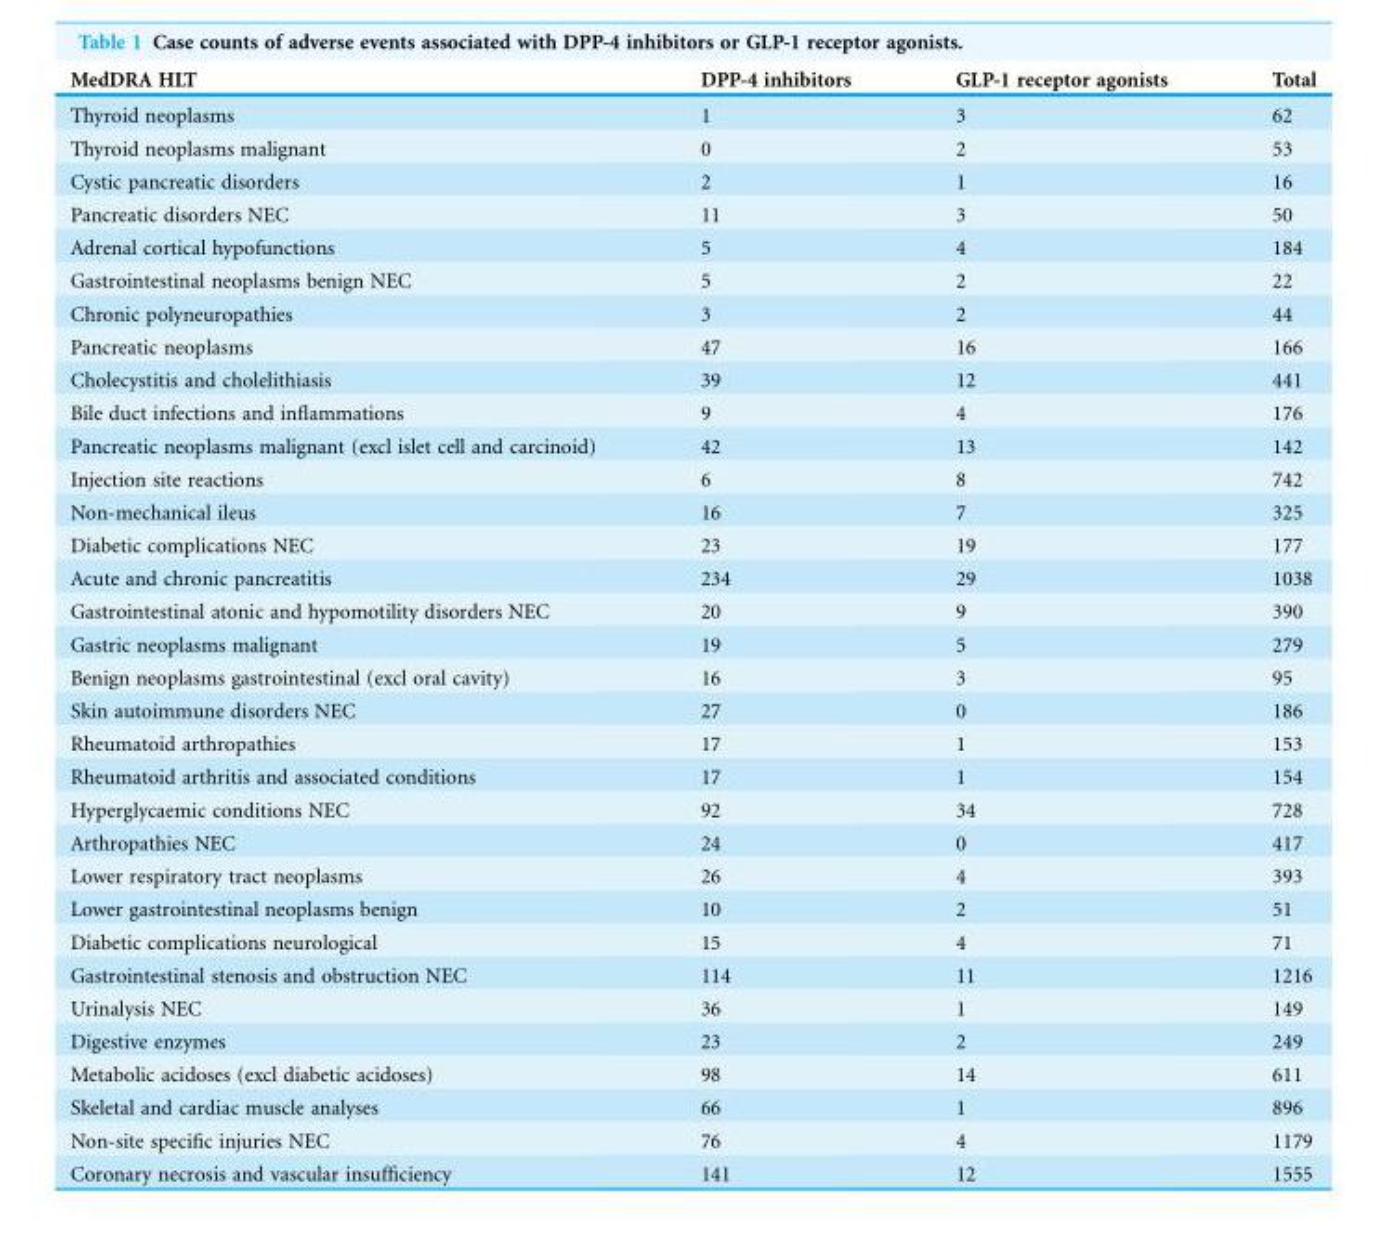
<table><thead><tr><td>MedDRA HLT</td><td>DPP-4 inhibitors</td><td>GLP-1 receptor agonists</td><td>Total</td></tr></thead><tbody><tr><td>Thyroid neoplasms</td><td>1</td><td>3</td><td>62</td></tr><tr><td>Thyroid neoplasms malignant</td><td>0</td><td>2</td><td>53</td></tr><tr><td>Cystic pancreatic disorders</td><td>2</td><td>1</td><td>16</td></tr><tr><td>Pancreatic disorders NEC</td><td>11</td><td>3</td><td>50</td></tr><tr><td>Adrenal cortical hypofunctions</td><td>5</td><td>4</td><td>184</td></tr><tr><td>Gastrointestinal neoplasms benign NEC</td><td>5</td><td>2</td><td>22</td></tr><tr><td>Chronic polyneuropathies</td><td>3</td><td>2</td><td>44</td></tr><tr><td>Pancreatic neoplasms</td><td>47</td><td>16</td><td>166</td></tr><tr><td>Cholecystitis and cholelithiasis</td><td>39</td><td>12</td><td>441</td></tr><tr><td>Bile duct infections and inflammations</td><td>9</td><td>4</td><td>176</td></tr><tr><td>Pancreatic neoplasms malignant (excl islet cell and carcinoid)</td><td>42</td><td>13</td><td>142</td></tr><tr><td>Injection site reactions</td><td>6</td><td>8</td><td>742</td></tr><tr><td>Non-mechanical ileus</td><td>16</td><td>7</td><td>325</td></tr><tr><td>Diabetic complications NEC</td><td>23</td><td>19</td><td>177</td></tr><tr><td>Acute and chronic pancreatitis</td><td>234</td><td>29</td><td>1038</td></tr><tr><td>Gastrointestinal atonic and hypomotility disorders NEC</td><td>20</td><td>9</td><td>390</td></tr><tr><td>Gastric neoplasms malignant</td><td>19</td><td>5</td><td>279</td></tr><tr><td>Benign neoplasms gastrointestinal (excl oral cavity)</td><td>16</td><td>3</td><td>95</td></tr><tr><td>Skin autoimmune disorders NEC</td><td>27</td><td>0</td><td>186</td></tr><tr><td>Rheumatoid arthropathies</td><td>17</td><td>1</td><td>153</td></tr><tr><td>Rheumatoid arthritis and associated conditions</td><td>17</td><td>1</td><td>154</td></tr><tr><td>Hyperglycaemic conditions NEC</td><td>92</td><td>34</td><td>728</td></tr><tr><td>Arthropathies NEC</td><td>24</td><td>0</td><td>417</td></tr><tr><td>Lower respiratory tract neoplasms</td><td>26</td><td>4</td><td>393</td></tr><tr><td>Lower gastrointestinal neoplasms benign</td><td>10</td><td>2</td><td>51</td></tr><tr><td>Diabetic complications neurological</td><td>15</td><td>4</td><td>71</td></tr><tr><td>Gastrointestinal stenosis and obstruction NEC</td><td>114</td><td>11</td><td>1216</td></tr><tr><td>Urinalysis NEC</td><td>36</td><td>1</td><td>149</td></tr><tr><td>Digestive enzymes</td><td>23</td><td>2</td><td>249</td></tr><tr><td>Metabolic acidoses (excl diabetic acidoses)</td><td>98</td><td>14</td><td>611</td></tr><tr><td>Skeletal and cardiac muscle analyses</td><td>66</td><td>1</td><td>896</td></tr><tr><td>Non-site specific injuries NEC</td><td>76</td><td>4</td><td>1179</td></tr><tr><td>Coronary necrosis and vascular insufficiency</td><td>141</td><td>12</td><td>1555</td></tr></tbody></table>